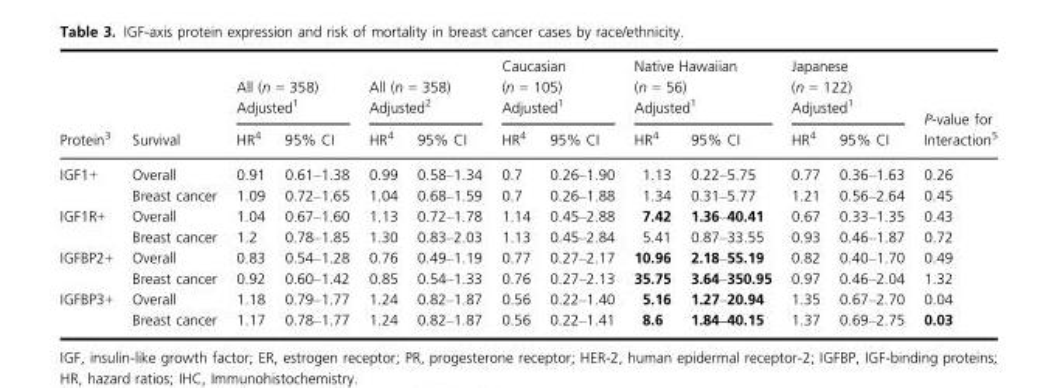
<table><thead><tr><td rowspan="3">Protein3</td><td rowspan="3">Survival</td><td rowspan="2" colspan="2">All (n = 358) Adjusted<sup>1</sup></td><td rowspan="2" colspan="2">All (n = 358) Adjusted2</td><td rowspan="2" colspan="2">Caucasian (n = 105) Adjusted<sup>1</sup></td><td rowspan="2" colspan="2">Native Hawaiian (n = 56) Adjusted<sup>1</sup></td><td rowspan="2" colspan="2">Japanese (n = 122) Adjusted<sup>1</sup></td><td rowspan="3">P-value for Interaction<sup>5</sup></td></tr><tr></tr><tr><td>HR<sup>4</sup></td><td>95% CI</td><td>HR<sup>4</sup></td><td>95% CI</td><td>HR<sup>4</sup></td><td>95% CI</td><td>HR<sup>4</sup></td><td>95% CI</td><td>HR<sup>4</sup></td><td>95% CI</td></tr></thead><tbody><tr><td rowspan="2">IGF1+</td><td>Overall</td><td>0.91</td><td>0.61–1.38</td><td>0.99</td><td>0.58–1.34</td><td>0.7</td><td>0.26–1.90</td><td>1.13</td><td>0.22–5.75</td><td>0.77</td><td>0.36–1.63</td><td>0.26</td></tr><tr><td>Breast cancer</td><td>1.09</td><td>0.72–1.65</td><td>1.04</td><td>0.68–1.59</td><td>0.7</td><td>0.26–1.88</td><td>1.34</td><td>0.31–5.77</td><td>1.21</td><td>0.56–2.64</td><td>0.45</td></tr><tr><td rowspan="2">IGF1R+</td><td>Overall</td><td>1.04</td><td>0.67–1.60</td><td>1.13</td><td>0.72–1.78</td><td>1.14</td><td>0.45–2.88</td><td>7.42</td><td>1.36–40.41</td><td>0.67</td><td>0.33–1.35</td><td>0.43</td></tr><tr><td>Breast cancer</td><td>1.2</td><td>0.78–1.85</td><td>1.30</td><td>0.83–2.03</td><td>1.13</td><td>0.45–2.84</td><td>5.41</td><td>0.87–33.55</td><td>0.93</td><td>0.46–1.87</td><td>0.72</td></tr><tr><td rowspan="2">IGFBP2+</td><td>Overall</td><td>0.83</td><td>0.54–1.28</td><td>0.76</td><td>0.49–1.19</td><td>0.77</td><td>0.27–2.17</td><td>10.96</td><td>2.18–55.19</td><td>0.82</td><td>0.40–1.70</td><td>0.49</td></tr><tr><td>Breast cancer</td><td>0.92</td><td>0.60–1.42</td><td>0.85</td><td>0.54–1.33</td><td>0.76</td><td>0.27–2.13</td><td>35.75</td><td>3.64–350.95</td><td>0.97</td><td>0.46–2.04</td><td>1.32</td></tr><tr><td rowspan="2">IGFBP3+</td><td>Overall</td><td>1.18</td><td>0.79–1.77</td><td>1.24</td><td>0.82–1.87</td><td>0.56</td><td>0.22–1.40</td><td>5.16</td><td>1.27–20.94</td><td>1.35</td><td>0.67–2.70</td><td>0.04</td></tr><tr><td>Breast cancer</td><td>1.17</td><td>0.78–1.77</td><td>1.24</td><td>0.82–1.87</td><td>0.56</td><td>0.22–1.41</td><td>8.6</td><td>1.84–40.15</td><td>1.37</td><td>0.69–2.75</td><td>0.03</td></tr></tbody></table>